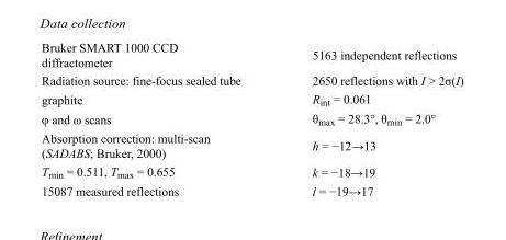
<table><tbody><tr><td>Bruker SMART 1000 CCD diffractometer</td><td>5163 independent reflections</td></tr><tr><td>Radiation source: fine-focus sealed tube</td><td>2650 reflections with I &gt; 2σ(I)</td></tr><tr><td>graphite</td><td>R<sub>int</sub> = 0.061</td></tr><tr><td>φ and ω scans</td><td>θ<sub>max</sub> = 28.3°, θ<sub>min</sub> = 2.0°</td></tr><tr><td>Absorption correction: multi-scan (SADABS; Bruker, 2000)</td><td>h = −12→13</td></tr><tr><td>T<sub>min</sub> = 0.511, T<sub>max</sub> = 0.655</td><td>k = −18→19</td></tr><tr><td>15087 measured reflections</td><td>l = −19→17</td></tr></tbody></table>